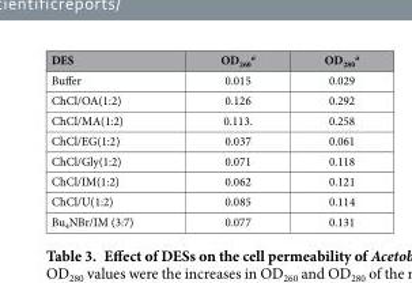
<table><thead><tr><td>DES</td><td>OD<sub>260</sub> <sup>a</sup></td><td>OD<sub>280</sub> <sup>a</sup></td></tr></thead><tbody><tr><td>Buffer</td><td>0.015</td><td>0.029</td></tr><tr><td>ChCl/OA(1:2)</td><td>0.126</td><td>0.292</td></tr><tr><td>ChCl/MA(1:2)</td><td>0.113.</td><td>0.258</td></tr><tr><td>ChCl/EG(1:2)</td><td>0.037</td><td>0.061</td></tr><tr><td>ChCl/Gly(1:2)</td><td>0.071</td><td>0.118</td></tr><tr><td>ChCl/IM(1:2)</td><td>0.062</td><td>0.121</td></tr><tr><td>ChCl/U(1:2)</td><td>0.085</td><td>0.114</td></tr><tr><td>Bu<sub>4</sub>NBr/IM (3:7)</td><td>0.077</td><td>0.131</td></tr></tbody></table>